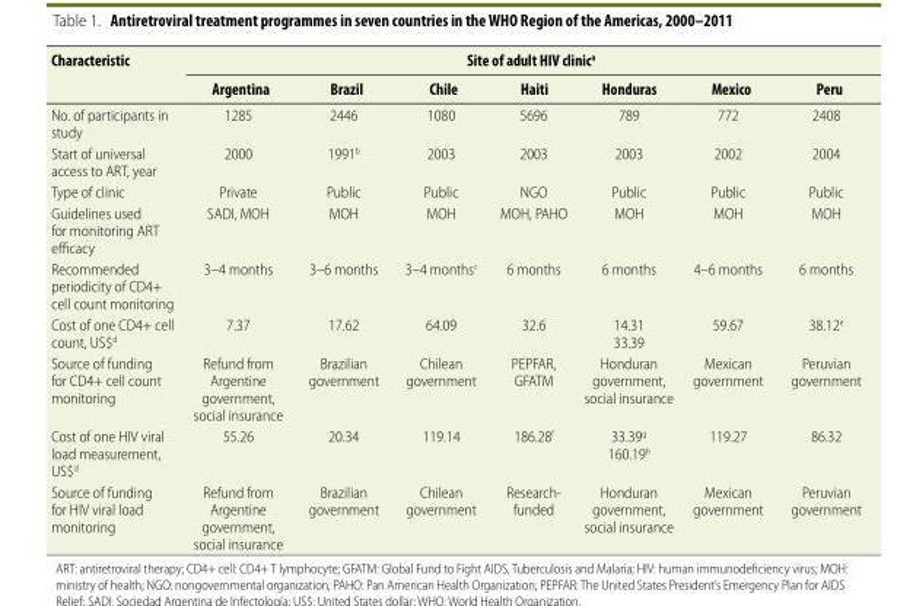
<table><thead><tr><td rowspan="2">Characteristic</td><td colspan="7">Site of adult HIV clinic<sup>a</sup></td></tr><tr><td>Argentina</td><td>Brazil</td><td>Chile</td><td>Haiti</td><td>Honduras</td><td>Mexico</td><td>Peru</td></tr></thead><tbody><tr><td>No. of participants in study</td><td>1285</td><td>2446</td><td>1080</td><td>5696</td><td>789</td><td>772</td><td>2408</td></tr><tr><td>Start of universal access to ART, year</td><td>2000</td><td>1991<sup>b</sup></td><td>2003</td><td>2003</td><td>2003</td><td>2002</td><td>2004</td></tr><tr><td>Type of clinic</td><td>Private</td><td>Public</td><td>Public</td><td>NGO</td><td>Public</td><td>Public</td><td>Public</td></tr><tr><td>Guidelines used for monitoring ART efficacy</td><td>SADI, MOH</td><td>MOH</td><td>MOH</td><td>MOH, PAHO</td><td>MOH</td><td>MOH</td><td>MOH</td></tr><tr><td>Recommended periodicity of CD4+ cell count monitoring</td><td>3–4 months</td><td>3–6 months</td><td>3–4 months<sup>c</sup></td><td>6 months</td><td>6 months</td><td>4–6 months</td><td>6 months</td></tr><tr><td>Cost of one CD4+ cell count, US$<sup>d</sup></td><td>7.37</td><td>17.62</td><td>64.09</td><td>32.6</td><td>14.31 33.39</td><td>59.67</td><td>38.12<sup>e</sup></td></tr><tr><td>Source of funding for CD4+ cell count monitoring</td><td>Refund from Argentine government, social insurance</td><td>Brazilian government</td><td>Chilean government</td><td>PEPFAR, GFATM</td><td>Honduran government, social insurance</td><td>Mexican government</td><td>Peruvian government</td></tr><tr><td>Cost of one HIV viral load measurement, US$<sup>d</sup></td><td>55.26</td><td>20.34</td><td>119.14</td><td>186.28<sup>f</sup></td><td>33.39<sup>g</sup> 160.19<sup>h</sup></td><td>119.27</td><td>86.32</td></tr><tr><td>Source of funding for HIV viral load monitoring</td><td>Refund from Argentine government, social insurance</td><td>Brazilian government</td><td>Chilean government</td><td>Research- funded</td><td>Honduran government, social insurance</td><td>Mexican government</td><td>Peruvian government</td></tr></tbody></table>